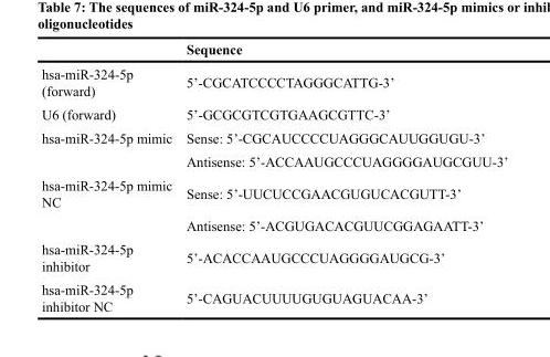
<table><thead><tr><td></td><td>Sequence</td></tr></thead><tbody><tr><td>hsa-miR-324-5p (forward)</td><td>5’-CGCATCCCCTAGGGCATTG-3’</td></tr><tr><td>U6 (forward)</td><td>5’-GCGCGTCGTGAAGCGTTC-3’</td></tr><tr><td rowspan="2">hsa-miR-324-5p mimic</td><td>Sense: 5’-CGCAUCCCCUAGGGCAUUGGUGU-3’</td></tr><tr><td>Antisense: 5’-ACCAAUGCCCUAGGGGAUGCGUU-3’</td></tr><tr><td rowspan="2">hsa-miR-324-5p mimic NC</td><td>Sense: 5’-UUCUCCGAACGUGUCACGUTT-3’</td></tr><tr><td>Antisense: 5’-ACGUGACACGUUCGGAGAATT-3’</td></tr><tr><td>hsa-miR-324-5p inhibitor</td><td>5’-ACACCAAUGCCCUAGGGGAUGCG-3’</td></tr><tr><td>hsa-miR-324-5p inhibitor NC</td><td>5’-CAGUACUUUUGUGUAGUACAA-3’</td></tr></tbody></table>